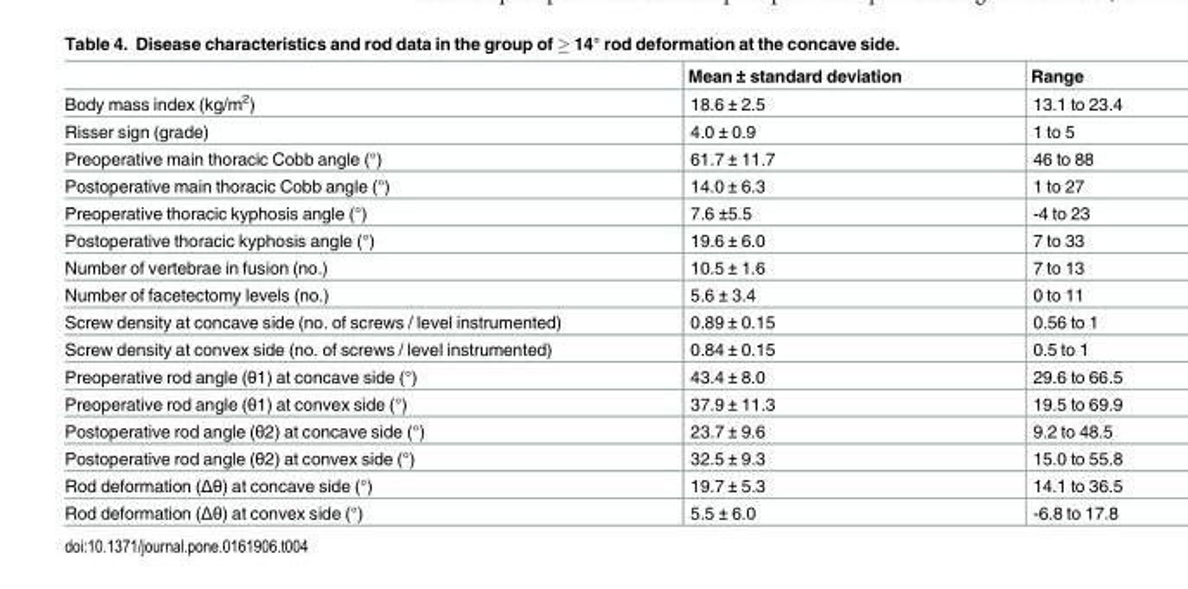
<table><thead><tr><td></td><td>Mean ± standard deviation</td><td>Range</td></tr></thead><tbody><tr><td>Body mass index (kg/m<sup>2</sup>)</td><td>18.6 ± 2.5</td><td>13.1 to 23.4</td></tr><tr><td>Risser sign (grade)</td><td>4.0 ± 0.9</td><td>1 to 5</td></tr><tr><td>Preoperative main thoracic Cobb angle (°)</td><td>61.7 ± 11.7</td><td>46 to 88</td></tr><tr><td>Postoperative main thoracic Cobb angle (°)</td><td>14.0 ± 6.3</td><td>1 to 27</td></tr><tr><td>Preoperative thoracic kyphosis angle (°)</td><td>7.6 ±5.5</td><td>-4 to 23</td></tr><tr><td>Postoperative thoracic kyphosis angle (°)</td><td>19.6 ± 6.0</td><td>7 to 33</td></tr><tr><td>Number of vertebrae in fusion (no.)</td><td>10.5 ± 1.6</td><td>7 to 13</td></tr><tr><td>Number of facetectomy levels (no.)</td><td>5.6 ± 3.4</td><td>0 to 11</td></tr><tr><td>Screw density at concave side (no. of screws / level instrumented)</td><td>0.89 ± 0.15</td><td>0.56 to 1</td></tr><tr><td>Screw density at convex side (no. of screws / level instrumented)</td><td>0.84 ± 0.15</td><td>0.5 to 1</td></tr><tr><td>Preoperative rod angle (θ1) at concave side (°)</td><td>43.4 ± 8.0</td><td>29.6 to 66.5</td></tr><tr><td>Preoperative rod angle (θ1) at convex side (°)</td><td>37.9 ± 11.3</td><td>19.5 to 69.9</td></tr><tr><td>Postoperative rod angle (θ2) at concave side (°)</td><td>23.7 ± 9.6</td><td>9.2 to 48.5</td></tr><tr><td>Postoperative rod angle (θ2) at convex side (°)</td><td>32.5 ± 9.3</td><td>15.0 to 55.8</td></tr><tr><td>Rod deformation (Δθ) at concave side (°)</td><td>19.7 ± 5.3</td><td>14.1 to 36.5</td></tr><tr><td>Rod deformation (Δθ) at convex side (°)</td><td>5.5 ± 6.0</td><td>-6.8 to 17.8</td></tr></tbody></table>